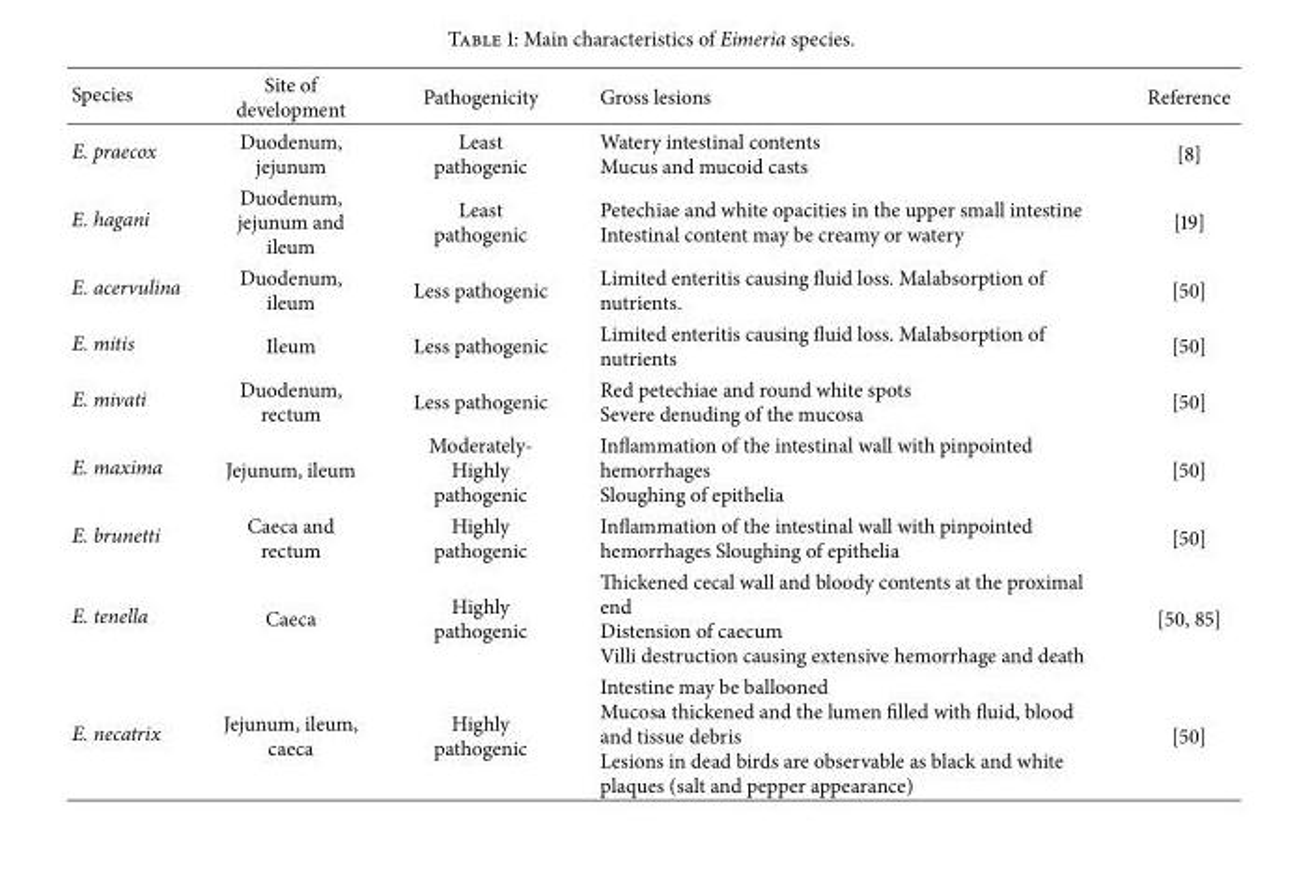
<table><thead><tr><td>Species</td><td>Site of development</td><td>Pathogenicity</td><td>Gross lesions</td><td>Reference</td></tr></thead><tbody><tr><td>E. praecox</td><td>Duodenum, jejunum</td><td>Least pathogenic</td><td>Watery intestinal contents Mucus and mucoid casts</td><td>[8]</td></tr><tr><td>E. hagani</td><td>Duodenum, jejunum and ileum</td><td>Least pathogenic</td><td>Petechiae and white opacities in the upper small intestine Intestinal content may be creamy or watery</td><td>[19]</td></tr><tr><td>E. acervulina</td><td>Duodenum, ileum</td><td>Less pathogenic</td><td>Limited enteritis causing fluid loss. Malabsorption of nutrients.</td><td>[50]</td></tr><tr><td>E. mitis</td><td>Ileum</td><td>Less pathogenic</td><td>Limited enteritis causing fluid loss. Malabsorption of nutrients</td><td>[50]</td></tr><tr><td>E. mivati</td><td>Duodenum, rectum</td><td>Less pathogenic</td><td>Red petechiae and round white spots Severe denuding of the mucosa</td><td>[50]</td></tr><tr><td>E. maxima</td><td>Jejunum, ileum</td><td>Moderately- Highly pathogenic</td><td>Inflammation of the intestinal wall with pinpointed hemorrhages Sloughing of epithelia</td><td>[50]</td></tr><tr><td>E. brunetti</td><td>Caeca and rectum</td><td>Highly pathogenic</td><td>Inflammation of the intestinal wall with pinpointed hemorrhages Sloughing of epithelia</td><td>[50]</td></tr><tr><td>E. tenella</td><td>Caeca</td><td>Highly pathogenic</td><td>Thickened cecal wall and bloody contents at the proximal end Distension of caecum Villi destruction causing extensive hemorrhage and death</td><td>[50, 85]</td></tr><tr><td>E. necatrix</td><td>Jejunum, ileum, caeca</td><td>Highly pathogenic</td><td>Intestine may be ballooned Mucosa thickened and the lumen filled with fluid, blood and tissue debris Lesions in dead birds are observable as black and white plaques (salt and pepper appearance)</td><td>[50]</td></tr></tbody></table>